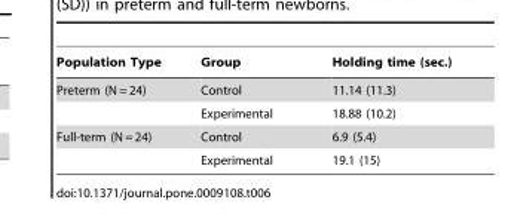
<table><thead><tr><td>Population Type</td><td>Group</td><td>Holding time (sec.)</td></tr></thead><tbody><tr><td rowspan="2">Preterm (N = 24)</td><td>Control</td><td>11.14 (11.3)</td></tr><tr><td>Experimental</td><td>18.88 (10.2)</td></tr><tr><td rowspan="2">Full-term (N = 24)</td><td>Control</td><td>6.9 (5.4)</td></tr><tr><td>Experimental</td><td>19.1 (15)</td></tr></tbody></table>